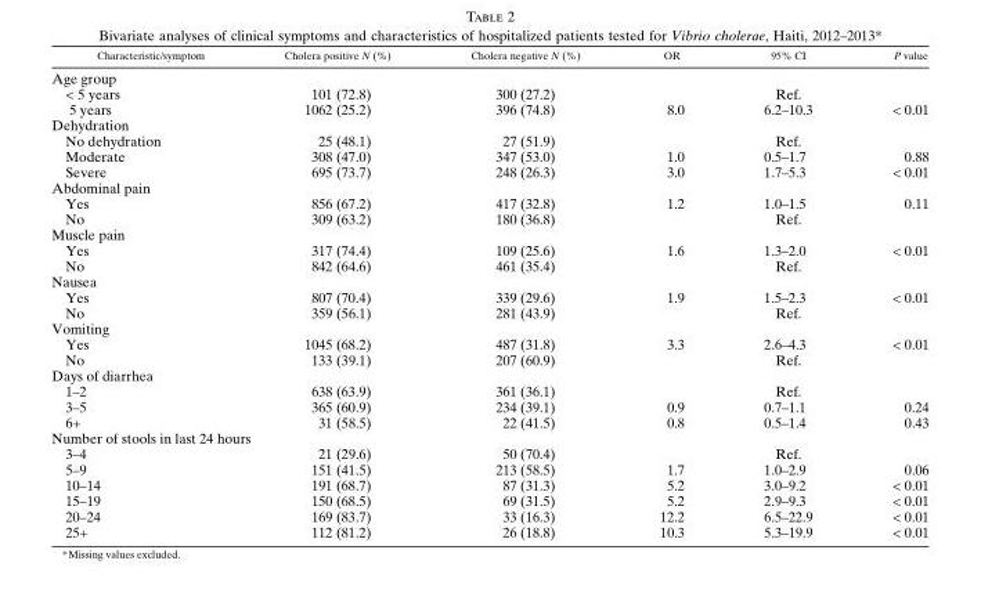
<table><thead><tr><td>Characteristic/symptom</td><td>Cholera positive N (%)</td><td>Cholera negative N (%)</td><td>OR</td><td>95% CI</td><td>P value</td></tr></thead><tbody><tr><td colspan="6">Age group</td></tr><tr><td>&lt; 5 years</td><td>101 (72.8)</td><td>300 (27.2)</td><td></td><td>Ref.</td><td></td></tr><tr><td>5 years</td><td>1062 (25.2)</td><td>396 (74.8)</td><td>8.0</td><td>6.2–10.3</td><td>&lt; 0.01</td></tr><tr><td colspan="6">Dehydration</td></tr><tr><td>No dehydration</td><td>25 (48.1)</td><td>27 (51.9)</td><td></td><td>Ref.</td><td></td></tr><tr><td>Moderate</td><td>308 (47.0)</td><td>347 (53.0)</td><td>1.0</td><td>0.5–1.7</td><td>0.88</td></tr><tr><td>Severe</td><td>695 (73.7)</td><td>248 (26.3)</td><td>3.0</td><td>1.7–5.3</td><td>&lt; 0.01</td></tr><tr><td colspan="6">Abdominal pain</td></tr><tr><td>Yes</td><td>856 (67.2)</td><td>417 (32.8)</td><td>1.2</td><td>1.0–1.5</td><td>0.11</td></tr><tr><td>No</td><td>309 (63.2)</td><td>180 (36.8)</td><td></td><td>Ref.</td><td></td></tr><tr><td colspan="6">Muscle pain</td></tr><tr><td>Yes</td><td>317 (74.4)</td><td>109 (25.6)</td><td>1.6</td><td>1.3–2.0</td><td>&lt; 0.01</td></tr><tr><td>No</td><td>842 (64.6)</td><td>461 (35.4)</td><td></td><td>Ref.</td><td></td></tr><tr><td colspan="6">Nausea</td></tr><tr><td>Yes</td><td>807 (70.4)</td><td>339 (29.6)</td><td>1.9</td><td>1.5–2.3</td><td>&lt; 0.01</td></tr><tr><td>No</td><td>359 (56.1)</td><td>281 (43.9)</td><td></td><td>Ref.</td><td></td></tr><tr><td colspan="6">Vomiting</td></tr><tr><td>Yes</td><td>1045 (68.2)</td><td>487 (31.8)</td><td>3.3</td><td>2.6–4.3</td><td>&lt; 0.01</td></tr><tr><td>No</td><td>133 (39.1)</td><td>207 (60.9)</td><td></td><td>Ref.</td><td></td></tr><tr><td colspan="6">Days of diarrhea</td></tr><tr><td>1–2</td><td>638 (63.9)</td><td>361 (36.1)</td><td></td><td>Ref.</td><td></td></tr><tr><td>3–5</td><td>365 (60.9)</td><td>234 (39.1)</td><td>0.9</td><td>0.7–1.1</td><td>0.24</td></tr><tr><td>6+</td><td>31 (58.5)</td><td>22 (41.5)</td><td>0.8</td><td>0.5–1.4</td><td>0.43</td></tr><tr><td colspan="6">Number of stools in last 24 hours</td></tr><tr><td>3–4</td><td>21 (29.6)</td><td>50 (70.4)</td><td></td><td>Ref.</td><td></td></tr><tr><td>5–9</td><td>151 (41.5)</td><td>213 (58.5)</td><td>1.7</td><td>1.0–2.9</td><td>0.06</td></tr><tr><td>10–14</td><td>191 (68.7)</td><td>87 (31.3)</td><td>5.2</td><td>3.0–9.2</td><td>&lt; 0.01</td></tr><tr><td>15–19</td><td>150 (68.5)</td><td>69 (31.5)</td><td>5.2</td><td>2.9–9.3</td><td>&lt; 0.01</td></tr><tr><td>20–24</td><td>169 (83.7)</td><td>33 (16.3)</td><td>12.2</td><td>6.5–22.9</td><td>&lt; 0.01</td></tr><tr><td>25+</td><td>112 (81.2)</td><td>26 (18.8)</td><td>10.3</td><td>5.3–19.9</td><td>&lt; 0.01</td></tr></tbody></table>